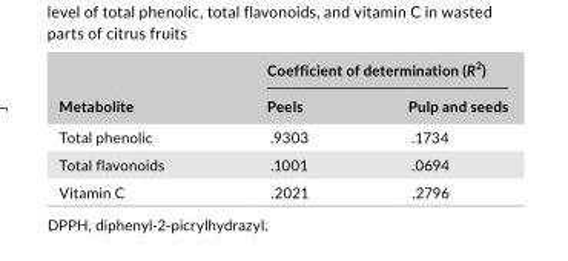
<table><thead><tr><td rowspan="2">Metabolite</td><td colspan="2">Coefficient of determination (R<sup>2</sup>)</td></tr><tr><td>Peels</td><td>Pulp and seeds</td></tr></thead><tbody><tr><td>Total phenolic</td><td>.9303</td><td>.1734</td></tr><tr><td>Total flavonoids</td><td>.1001</td><td>.0694</td></tr><tr><td>Vitamin C</td><td>.2021</td><td>.2796</td></tr></tbody></table>